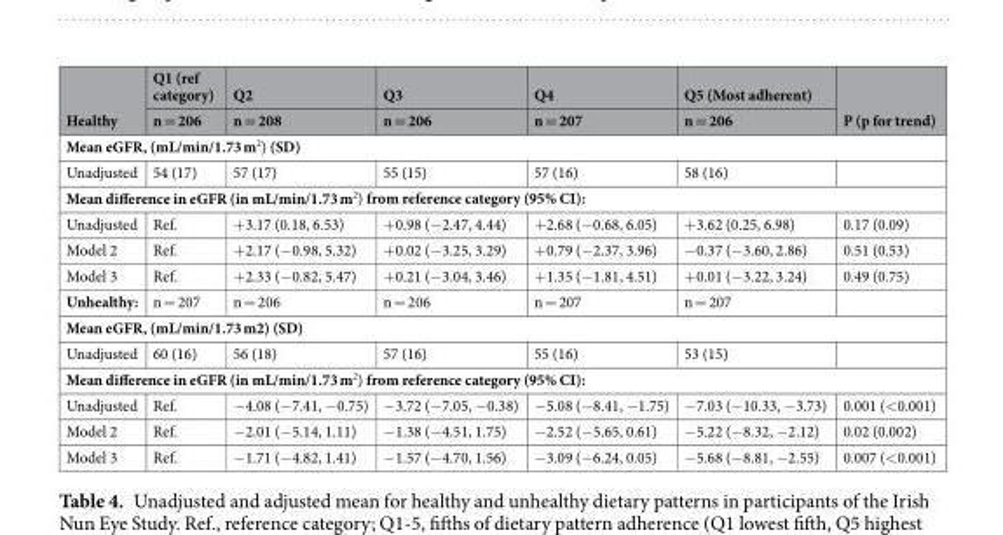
<table><thead><tr><td rowspan="2">Healthy</td><td rowspan="2">Q1 (ref category) n = 206</td><td rowspan="2">Q2 n = 208</td><td rowspan="2">Q3 n = 206</td><td rowspan="2">Q4 n = 207</td><td rowspan="2">Q5 (Most adherent) n = 206</td><td rowspan="2">P (p for trend)</td></tr><tr></tr></thead><tbody><tr><td colspan="7">Mean eGFR, (mL/min/1.73 m2) (SD)</td></tr><tr><td>Unadjusted</td><td>54 (17)</td><td>57 (17)</td><td>55 (15)</td><td>57 (16)</td><td>58 (16)</td><td></td></tr><tr><td colspan="7">Mean difference in eGFR (in mL/min/1.73 m<sup>2</sup>) from reference category (95% CI):</td></tr><tr><td>Unadjusted</td><td>Ref.</td><td>+3.17 (0.18, 6.53)</td><td>+0.98 (−2.47, 4.44)</td><td>+2.68 (−0.68, 6.05)</td><td>+3.62 (0.25, 6.98)</td><td>0.17 (0.09)</td></tr><tr><td>Model 2</td><td>Ref.</td><td>+2.17 (−0.98, 5.32)</td><td>+0.02 (−3.25, 3.29)</td><td>+0.79 (−2.37, 3.96)</td><td>−0.37 (−3.60, 2.86)</td><td>0.51 (0.53)</td></tr><tr><td>Model 3</td><td>Ref.</td><td>+2.33 (−0.82, 5.47)</td><td>+0.21 (−3.04, 3.46)</td><td>+1.35 (−1.81, 4.51)</td><td>+0.01 (−3.22, 3.24)</td><td>0.49 (0.75)</td></tr><tr><td>Unhealthy:</td><td>n = 207</td><td>n = 206</td><td>n = 206</td><td>n = 207</td><td>n = 207</td><td></td></tr><tr><td colspan="7">Mean eGFR, (mL/min/1.73 m2) (SD)</td></tr><tr><td>Unadjusted</td><td>60 (16)</td><td>56 (18)</td><td>57 (16)</td><td>55 (16)</td><td>53 (15)</td><td></td></tr><tr><td colspan="7">Mean difference in eGFR (in mL/min/1.73 m<sup>2</sup>) from reference category (95% CI):</td></tr><tr><td>Unadjusted</td><td>Ref.</td><td>−4.08 (−7.41, −0.75)</td><td>−3.72 (−7.05, −0.38)</td><td>−5.08 (−8.41, −1.75)</td><td>−7.03 (−10.33, −3.73)</td><td>0.001 (&lt;0.001)</td></tr><tr><td>Model 2</td><td>Ref.</td><td>−2.01 (−5.14, 1.11)</td><td>−1.38 (−4.51, 1.75)</td><td>−2.52 (−5.65, 0.61)</td><td>−5.22 (−8.32, −2.12)</td><td>0.02 (0.002)</td></tr><tr><td>Model 3</td><td>Ref.</td><td>−1.71 (−4.82, 1.41)</td><td>−1.57 (−4.70, 1.56)</td><td>−3.09 (−6.24, 0.05)</td><td>−5.68 (−8.81, −2.55)</td><td>0.007 (&lt;0.001)</td></tr></tbody></table>